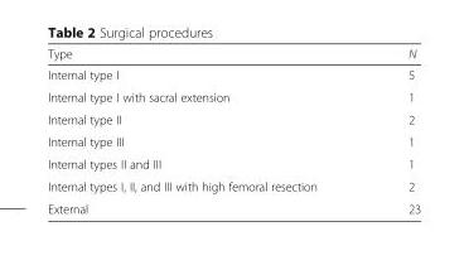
<table><thead><tr><td>Type</td><td>N</td></tr></thead><tbody><tr><td>Internal type I</td><td>5</td></tr><tr><td>Internal type I with sacral extension</td><td>1</td></tr><tr><td>Internal type II</td><td>2</td></tr><tr><td>Internal type III</td><td>1</td></tr><tr><td>Internal types II and III</td><td>1</td></tr><tr><td>Internal types I, II, and III with high femoral resection</td><td>2</td></tr><tr><td>External</td><td>23</td></tr></tbody></table>